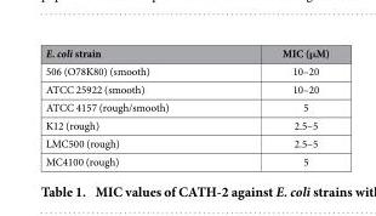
<table><thead><tr><td>E. coli strain</td><td>MIC (μM)</td></tr></thead><tbody><tr><td>506 (O78K80) (smooth)</td><td>10–20</td></tr><tr><td>ATCC 25922 (smooth)</td><td>10–20</td></tr><tr><td>ATCC 4157 (rough/smooth)</td><td>5</td></tr><tr><td>K12 (rough)</td><td>2.5–5</td></tr><tr><td>LMC500 (rough)</td><td>2.5–5</td></tr><tr><td>MC4100 (rough)</td><td>5</td></tr></tbody></table>